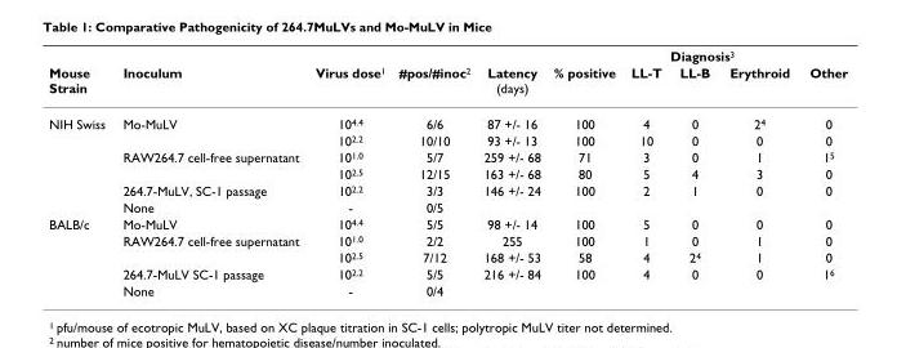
<table><thead><tr><td rowspan="2">Mouse Strain</td><td rowspan="2">Inoculum</td><td rowspan="2">Virus dose<sup>1</sup></td><td rowspan="2">#pos/#inoc<sup>2</sup></td><td rowspan="2">Latency (days)</td><td colspan="5">Diagnosis<sup>3</sup></td></tr><tr><td>% positive</td><td>LL-T</td><td>LL-B</td><td>Erythroid</td><td>Other</td></tr></thead><tbody><tr><td rowspan="6">NIH Swiss</td><td>Mo-MuLV</td><td>10<sup>4.4</sup></td><td>6/6</td><td>87 +/- 16</td><td>100</td><td>4</td><td>0</td><td>2<sup>4</sup></td><td>0</td></tr><tr><td></td><td>10<sup>2.2</sup></td><td>10/10</td><td>93 +/- 13</td><td>100</td><td>10</td><td>0</td><td>0</td><td>0</td></tr><tr><td>RAW264.7 cell-free supernatant</td><td>10<sup>1.0</sup></td><td>5/7</td><td>259 +/- 68</td><td>71</td><td>3</td><td>0</td><td>1</td><td>1<sup>5</sup></td></tr><tr><td></td><td>10<sup>2.5</sup></td><td>12/15</td><td>163 +/- 68</td><td>80</td><td>5</td><td>4</td><td>3</td><td>0</td></tr><tr><td>264.7-MuLV, SC-1 passage</td><td>10<sup>2.2</sup></td><td>3/3</td><td>146 +/- 24</td><td>100</td><td>2</td><td>1</td><td>0</td><td>0</td></tr><tr><td>None</td><td>-</td><td>0/5</td><td></td><td></td><td></td><td></td><td></td><td></td></tr><tr><td rowspan="5">BALB/c</td><td>Mo-MuLV</td><td>10<sup>4.4</sup></td><td>5/5</td><td>98 +/- 14</td><td>100</td><td>5</td><td>0</td><td>0</td><td>0</td></tr><tr><td>RAW264.7 cell-free supernatant</td><td>10<sup>1.0</sup></td><td>2/2</td><td>255</td><td>100</td><td>1</td><td>0</td><td>1</td><td>0</td></tr><tr><td></td><td>10<sup>2.5</sup></td><td>7/12</td><td>168 +/- 53</td><td>58</td><td>4</td><td>2<sup>4</sup></td><td>1</td><td>0</td></tr><tr><td>264.7-MuLV SC-1 passage</td><td>10<sup>2.2</sup></td><td>5/5</td><td>216 +/- 84</td><td>100</td><td>4</td><td>0</td><td>0</td><td>1<sup>6</sup></td></tr><tr><td>None</td><td>-</td><td>0/4</td><td></td><td></td><td></td><td></td><td></td><td></td></tr></tbody></table>